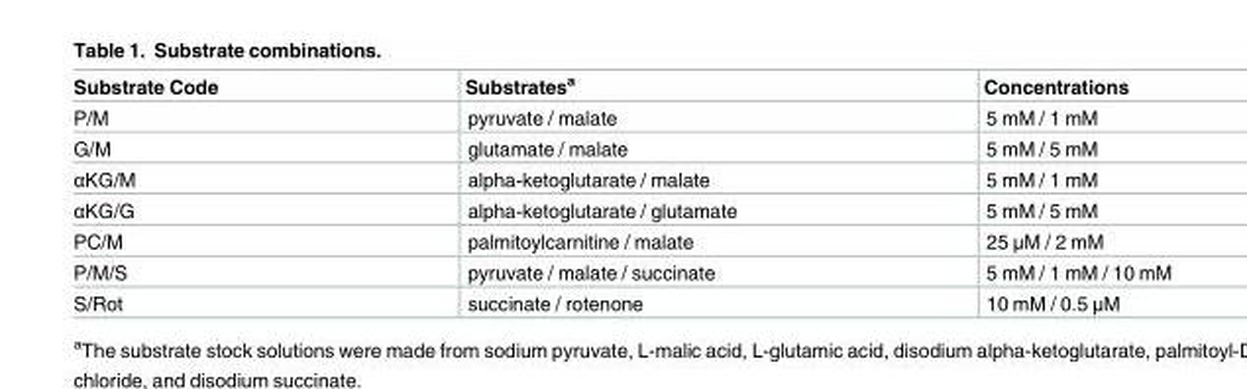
<table><thead><tr><td>Substrate Code</td><td>Substrates<sup>a</sup></td><td>Concentrations</td></tr></thead><tbody><tr><td>P/M</td><td>pyruvate / malate</td><td>5 mM / 1 mM</td></tr><tr><td>G/M</td><td>glutamate / malate</td><td>5 mM / 5 mM</td></tr><tr><td>αKG/M</td><td>alpha-ketoglutarate / malate</td><td>5 mM / 1 mM</td></tr><tr><td>αKG/G</td><td>alpha-ketoglutarate / glutamate</td><td>5 mM / 5 mM</td></tr><tr><td>PC/M</td><td>palmitoylcarnitine / malate</td><td>25 μM / 2 mM</td></tr><tr><td>P/M/S</td><td>pyruvate / malate / succinate</td><td>5 mM / 1 mM / 10 mM</td></tr><tr><td>S/Rot</td><td>succinate / rotenone</td><td>10 mM / 0.5 μM</td></tr></tbody></table>